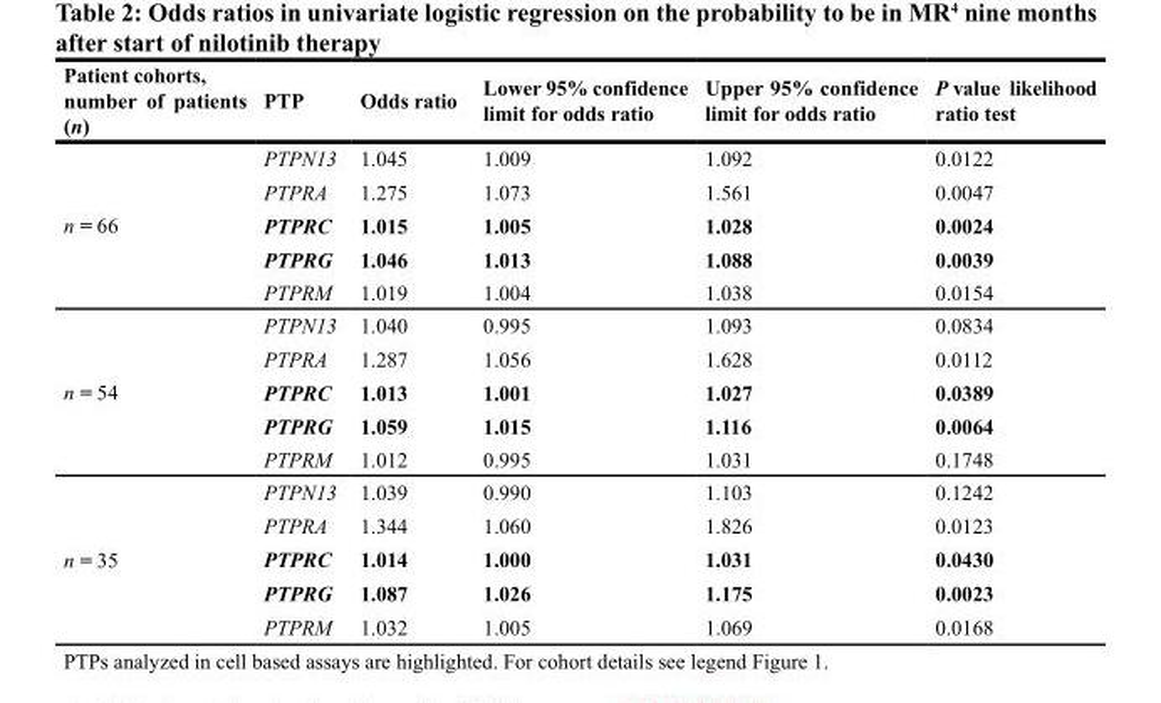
<table><thead><tr><td>Patient cohorts, number of patients (n)</td><td>PTP</td><td>Odds ratio</td><td>Lower 95% confidence limit for odds ratio</td><td>Upper 95% confidence limit for odds ratio</td><td>P value likelihood ratio test</td></tr></thead><tbody><tr><td rowspan="5">n = 66</td><td>PTPN13</td><td>1.045</td><td>1.009</td><td>1.092</td><td>0.0122</td></tr><tr><td>PTPRA</td><td>1.275</td><td>1.073</td><td>1.561</td><td>0.0047</td></tr><tr><td>PTPRC</td><td>1.015</td><td>1.005</td><td>1.028</td><td>0.0024</td></tr><tr><td>PTPRG</td><td>1.046</td><td>1.013</td><td>1.088</td><td>0.0039</td></tr><tr><td>PTPRM</td><td>1.019</td><td>1.004</td><td>1.038</td><td>0.0154</td></tr><tr><td rowspan="5">n = 54</td><td>PTPN13</td><td>1.040</td><td>0.995</td><td>1.093</td><td>0.0834</td></tr><tr><td>PTPRA</td><td>1.287</td><td>1.056</td><td>1.628</td><td>0.0112</td></tr><tr><td>PTPRC</td><td>1.013</td><td>1.001</td><td>1.027</td><td>0.0389</td></tr><tr><td>PTPRG</td><td>1.059</td><td>1.015</td><td>1.116</td><td>0.0064</td></tr><tr><td>PTPRM</td><td>1.012</td><td>0.995</td><td>1.031</td><td>0.1748</td></tr><tr><td rowspan="5">n = 35</td><td>PTPN13</td><td>1.039</td><td>0.990</td><td>1.103</td><td>0.1242</td></tr><tr><td>PTPRA</td><td>1.344</td><td>1.060</td><td>1.826</td><td>0.0123</td></tr><tr><td>PTPRC</td><td>1.014</td><td>1.000</td><td>1.031</td><td>0.0430</td></tr><tr><td>PTPRG</td><td>1.087</td><td>1.026</td><td>1.175</td><td>0.0023</td></tr><tr><td>PTPRM</td><td>1.032</td><td>1.005</td><td>1.069</td><td>0.0168</td></tr></tbody></table>